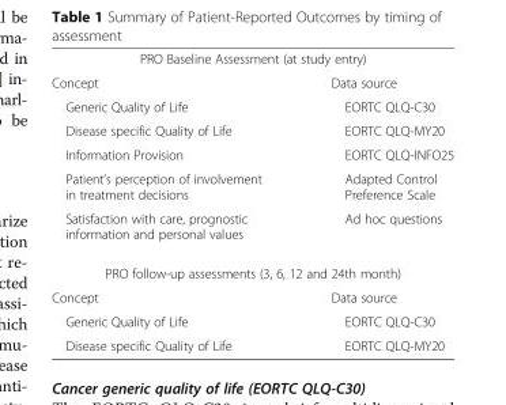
<table><tbody><tr><td colspan="2">PRO Baseline Assessment (at study entry)</td></tr><tr><td>Concept</td><td>Data source</td></tr><tr><td>Generic Quality of Life</td><td>EORTC QLQ-C30</td></tr><tr><td>Disease specific Quality of Life</td><td>EORTC QLQ-MY20</td></tr><tr><td>Information Provision</td><td>EORTC QLQ-INFO25</td></tr><tr><td>Patient’s perception of involvement in treatment decisions</td><td>Adapted Control Preference Scale</td></tr><tr><td>Satisfaction with care, prognostic information and personal values</td><td>Ad hoc questions</td></tr><tr><td colspan="2">PRO follow-up assessments (3, 6, 12 and 24th month)</td></tr><tr><td>Concept</td><td>Data source</td></tr><tr><td>Generic Quality of Life</td><td>EORTC QLQ-C30</td></tr><tr><td>Disease specific Quality of Life</td><td>EORTC QLQ-MY20</td></tr></tbody></table>